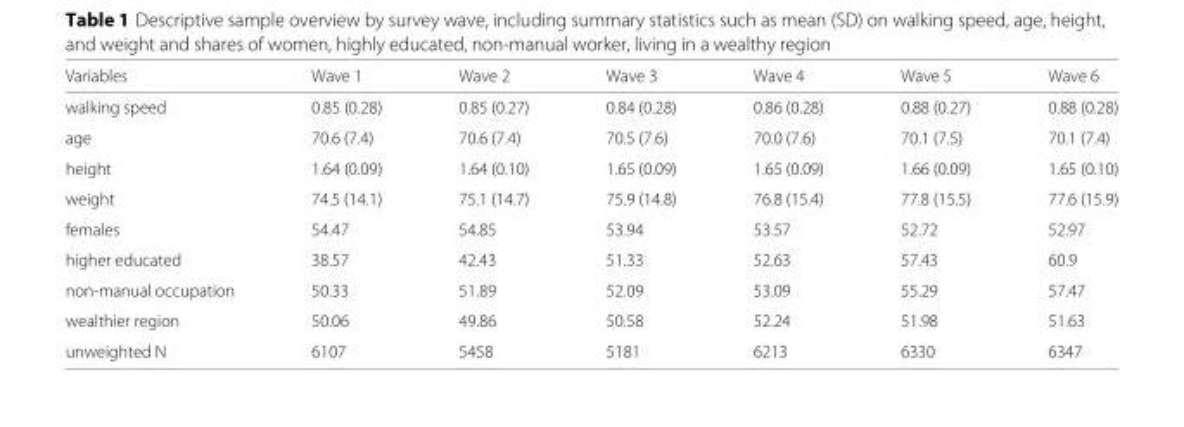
<table><thead><tr><td>Variables</td><td>Wave 1</td><td>Wave 2</td><td>Wave 3</td><td>Wave 4</td><td>Wave 5</td><td>Wave 6</td></tr></thead><tbody><tr><td>walking speed</td><td>0.85 (0.28)</td><td>0.85 (0.27)</td><td>0.84 (0.28)</td><td>0.86 (0.28)</td><td>0.88 (0.27)</td><td>0.88 (0.28)</td></tr><tr><td>age</td><td>70.6 (7.4)</td><td>70.6 (7.4)</td><td>70.5 (7.6)</td><td>70.0 (7.6)</td><td>70.1 (7.5)</td><td>70.1 (7.4)</td></tr><tr><td>height</td><td>1.64 (0.09)</td><td>1.64 (0.10)</td><td>1.65 (0.09)</td><td>1.65 (0.09)</td><td>1.66 (0.09)</td><td>1.65 (0.10)</td></tr><tr><td>weight</td><td>74.5 (14.1)</td><td>75.1 (14.7)</td><td>75.9 (14.8)</td><td>76.8 (15.4)</td><td>77.8 (15.5)</td><td>77.6 (15.9)</td></tr><tr><td>females</td><td>54.47</td><td>54.85</td><td>53.94</td><td>53.57</td><td>52.72</td><td>52.97</td></tr><tr><td>higher educated</td><td>38.57</td><td>42.43</td><td>51.33</td><td>52.63</td><td>57.43</td><td>60.9</td></tr><tr><td>non-manual occupation</td><td>50.33</td><td>51.89</td><td>52.09</td><td>53.09</td><td>55.29</td><td>57.47</td></tr><tr><td>wealthier region</td><td>50.06</td><td>49.86</td><td>50.58</td><td>52.24</td><td>51.98</td><td>51.63</td></tr><tr><td>unweighted N</td><td>6107</td><td>5458</td><td>5181</td><td>6213</td><td>6330</td><td>6347</td></tr></tbody></table>